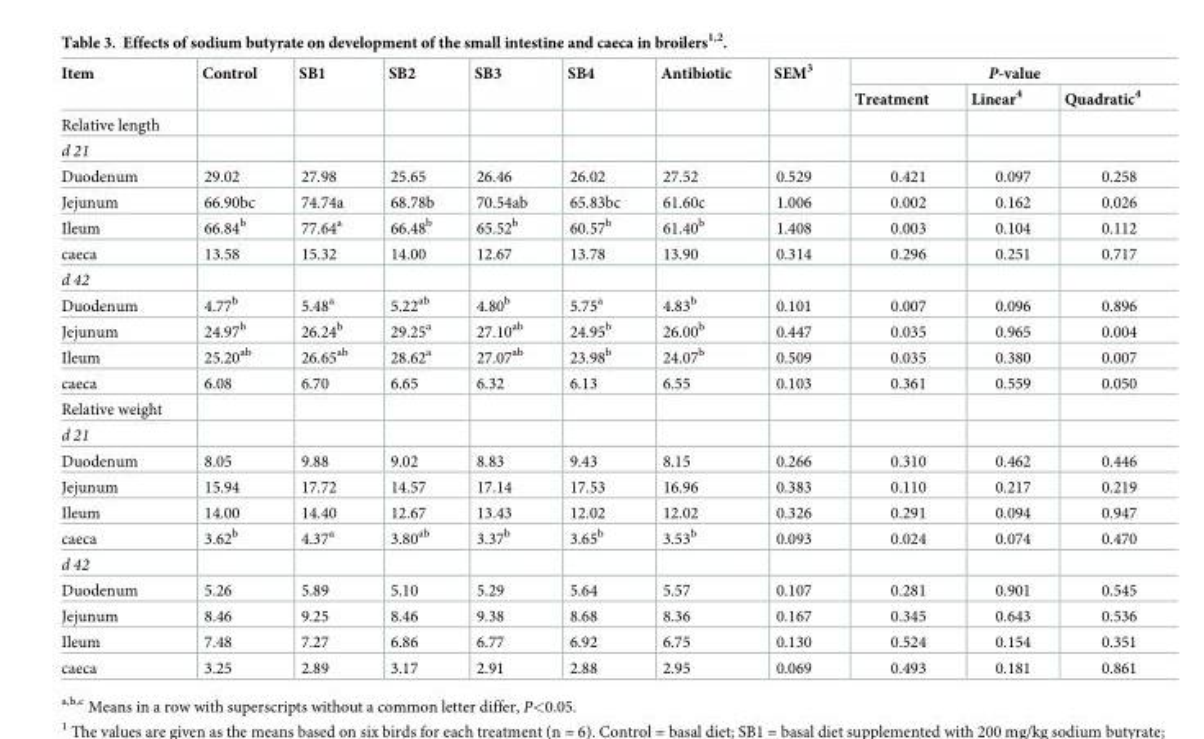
<table><thead><tr><td rowspan="2">Item</td><td rowspan="2">Control</td><td rowspan="2">SB1</td><td rowspan="2">SB2</td><td rowspan="2">SB3</td><td rowspan="2">SB4</td><td rowspan="2">Antibiotic</td><td rowspan="2">SEM<sup>3</sup></td><td colspan="3">P-value</td></tr><tr><td>Treatment</td><td>Linear<sup>4</sup></td><td>Quadratic<sup>4</sup></td></tr></thead><tbody><tr><td colspan="11">Relative length</td></tr><tr><td colspan="11">d 21</td></tr><tr><td>Duodenum</td><td>29.02</td><td>27.98</td><td>25.65</td><td>26.46</td><td>26.02</td><td>27.52</td><td>0.529</td><td>0.421</td><td>0.097</td><td>0.258</td></tr><tr><td>Jejunum</td><td>66.90bc</td><td>74.74a</td><td>68.78b</td><td>70.54ab</td><td>65.83bc</td><td>61.60c</td><td>1.006</td><td>0.002</td><td>0.162</td><td>0.026</td></tr><tr><td>Ileum</td><td>66.84<sup>b</sup></td><td>77.64<sup>a</sup></td><td>66.48<sup>b</sup></td><td>65.52<sup>b</sup></td><td>60.57<sup>b</sup></td><td>61.40<sup>b</sup></td><td>1.408</td><td>0.003</td><td>0.104</td><td>0.112</td></tr><tr><td>caeca</td><td>13.58</td><td>15.32</td><td>14.00</td><td>12.67</td><td>13.78</td><td>13.90</td><td>0.314</td><td>0.296</td><td>0.251</td><td>0.717</td></tr><tr><td colspan="11">d 42</td></tr><tr><td>Duodenum</td><td>4.77<sup>b</sup></td><td>5.48<sup>a</sup></td><td>5.22<sup>ab</sup></td><td>4.80<sup>b</sup></td><td>5.75<sup>a</sup></td><td>4.83<sup>b</sup></td><td>0.101</td><td>0.007</td><td>0.096</td><td>0.896</td></tr><tr><td>Jejunum</td><td>24.97<sup>b</sup></td><td>26.24<sup>b</sup></td><td>29.25<sup>a</sup></td><td>27.10<sup>ab</sup></td><td>24.95<sup>b</sup></td><td>26.00<sup>b</sup></td><td>0.447</td><td>0.035</td><td>0.965</td><td>0.004</td></tr><tr><td>Ileum</td><td>25.20<sup>ab</sup></td><td>26.65<sup>ab</sup></td><td>28.62<sup>a</sup></td><td>27.07<sup>ab</sup></td><td>23.98<sup>b</sup></td><td>24.07<sup>b</sup></td><td>0.509</td><td>0.035</td><td>0.380</td><td>0.007</td></tr><tr><td>caeca</td><td>6.08</td><td>6.70</td><td>6.65</td><td>6.32</td><td>6.13</td><td>6.55</td><td>0.103</td><td>0.361</td><td>0.559</td><td>0.050</td></tr><tr><td colspan="11">Relative weight</td></tr><tr><td colspan="11">d 21</td></tr><tr><td>Duodenum</td><td>8.05</td><td>9.88</td><td>9.02</td><td>8.83</td><td>9.43</td><td>8.15</td><td>0.266</td><td>0.310</td><td>0.462</td><td>0.446</td></tr><tr><td>Jejunum</td><td>15.94</td><td>17.72</td><td>14.57</td><td>17.14</td><td>17.53</td><td>16.96</td><td>0.383</td><td>0.110</td><td>0.217</td><td>0.219</td></tr><tr><td>Ileum</td><td>14.00</td><td>14.40</td><td>12.67</td><td>13.43</td><td>12.02</td><td>12.02</td><td>0.326</td><td>0.291</td><td>0.094</td><td>0.947</td></tr><tr><td>caeca</td><td>3.62<sup>b</sup></td><td>4.37<sup>a</sup></td><td>3.80<sup>ab</sup></td><td>3.37<sup>b</sup></td><td>3.65<sup>b</sup></td><td>3.53<sup>b</sup></td><td>0.093</td><td>0.024</td><td>0.074</td><td>0.470</td></tr><tr><td colspan="11">d 42</td></tr><tr><td>Duodenum</td><td>5.26</td><td>5.89</td><td>5.10</td><td>5.29</td><td>5.64</td><td>5.57</td><td>0.107</td><td>0.281</td><td>0.901</td><td>0.545</td></tr><tr><td>Jejunum</td><td>8.46</td><td>9.25</td><td>8.46</td><td>9.38</td><td>8.68</td><td>8.36</td><td>0.167</td><td>0.345</td><td>0.643</td><td>0.536</td></tr><tr><td>Ileum</td><td>7.48</td><td>7.27</td><td>6.86</td><td>6.77</td><td>6.92</td><td>6.75</td><td>0.130</td><td>0.524</td><td>0.154</td><td>0.351</td></tr><tr><td>caeca</td><td>3.25</td><td>2.89</td><td>3.17</td><td>2.91</td><td>2.88</td><td>2.95</td><td>0.069</td><td>0.493</td><td>0.181</td><td>0.861</td></tr></tbody></table>